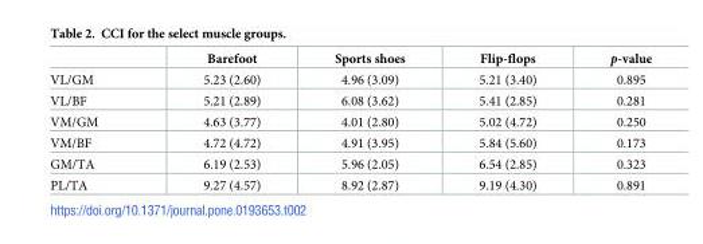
<table><thead><tr><td></td><td>Barefoot</td><td>Sports shoes</td><td>Flip-flops</td><td>p-value</td></tr></thead><tbody><tr><td>VL/GM</td><td>5.23 (2.60)</td><td>4.96 (3.09)</td><td>5.21 (3.40)</td><td>0.895</td></tr><tr><td>VL/BF</td><td>5.21 (2.89)</td><td>6.08 (3.62)</td><td>5.41 (2.85)</td><td>0.281</td></tr><tr><td>VM/GM</td><td>4.63 (3.77)</td><td>4.01 (2.80)</td><td>5.02 (4.72)</td><td>0.250</td></tr><tr><td>VM/BF</td><td>4.72 (4.72)</td><td>4.91 (3.95)</td><td>5.84 (5.60)</td><td>0.173</td></tr><tr><td>GM/TA</td><td>6.19 (2.53)</td><td>5.96 (2.05)</td><td>6.54 (2.85)</td><td>0.323</td></tr><tr><td>PL/TA</td><td>9.27 (4.57)</td><td>8.92 (2.87)</td><td>9.19 (4.30)</td><td>0.891</td></tr></tbody></table>